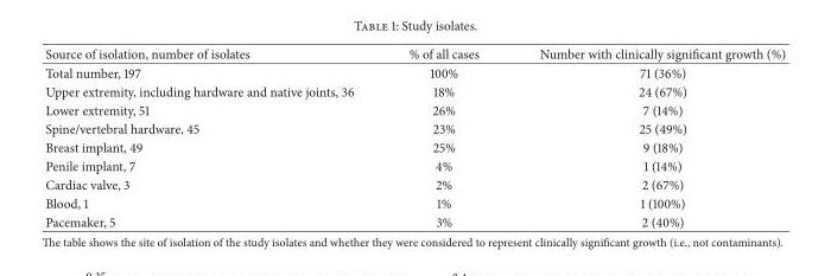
<table><thead><tr><td>Source of isolation, number of isolates</td><td>% of all cases</td><td>Number with clinically significant growth (%)</td></tr></thead><tbody><tr><td>Total number, 197</td><td>100%</td><td>71 (36%)</td></tr><tr><td>Upper extremity, including hardware and native joints, 36</td><td>18%</td><td>24 (67%)</td></tr><tr><td>Lower extremity, 51</td><td>26%</td><td>7 (14%)</td></tr><tr><td>Spine/vertebral hardware, 45</td><td>23%</td><td>25 (49%)</td></tr><tr><td>Breast implant, 49</td><td>25%</td><td>9 (18%)</td></tr><tr><td>Penile implant, 7</td><td>4%</td><td>1 (14%)</td></tr><tr><td>Cardiac valve, 3</td><td>2%</td><td>2 (67%)</td></tr><tr><td>Blood, 1</td><td>1%</td><td>1 (100%)</td></tr><tr><td>Pacemaker, 5</td><td>3%</td><td>2 (40%)</td></tr></tbody></table>